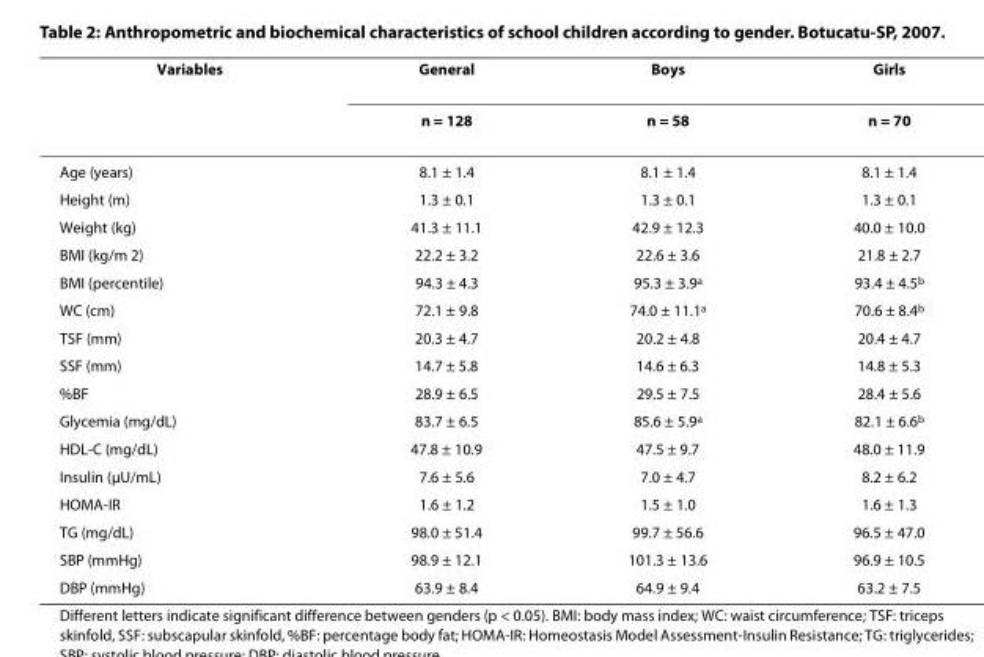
<table><thead><tr><td rowspan="2">Variables</td><td rowspan="2">General n = 128</td><td rowspan="2">Boys n = 58</td><td rowspan="2">Girls n = 70</td></tr><tr></tr></thead><tbody><tr><td>Age (years)</td><td>8.1 ± 1.4</td><td>8.1 ± 1.4</td><td>8.1 ± 1.4</td></tr><tr><td>Height (m)</td><td>1.3 ± 0.1</td><td>1.3 ± 0.1</td><td>1.3 ± 0.1</td></tr><tr><td>Weight (kg)</td><td>41.3 ± 11.1</td><td>42.9 ± 12.3</td><td>40.0 ± 10.0</td></tr><tr><td>BMI (kg/m 2)</td><td>22.2 ± 3.2</td><td>22.6 ± 3.6</td><td>21.8 ± 2.7</td></tr><tr><td>BMI (percentile)</td><td>94.3 ± 4.3</td><td>95.3 ± 3.9<sup>a</sup></td><td>93.4 ± 4.5<sup>b</sup></td></tr><tr><td>WC (cm)</td><td>72.1 ± 9.8</td><td>74.0 ± 11.1<sup>a</sup></td><td>70.6 ± 8.4<sup>b</sup></td></tr><tr><td>TSF (mm)</td><td>20.3 ± 4.7</td><td>20.2 ± 4.8</td><td>20.4 ± 4.7</td></tr><tr><td>SSF (mm)</td><td>14.7 ± 5.8</td><td>14.6 ± 6.3</td><td>14.8 ± 5.3</td></tr><tr><td>%BF</td><td>28.9 ± 6.5</td><td>29.5 ± 7.5</td><td>28.4 ± 5.6</td></tr><tr><td>Glycemia (mg/dL)</td><td>83.7 ± 6.5</td><td>85.6 ± 5.9<sup>a</sup></td><td>82.1 ± 6.6<sup>b</sup></td></tr><tr><td>HDL-C (mg/dL)</td><td>47.8 ± 10.9</td><td>47.5 ± 9.7</td><td>48.0 ± 11.9</td></tr><tr><td>Insulin (μU/mL)</td><td>7.6 ± 5.6</td><td>7.0 ± 4.7</td><td>8.2 ± 6.2</td></tr><tr><td>HOMA-IR</td><td>1.6 ± 1.2</td><td>1.5 ± 1.0</td><td>1.6 ± 1.3</td></tr><tr><td>TG (mg/dL)</td><td>98.0 ± 51.4</td><td>99.7 ± 56.6</td><td>96.5 ± 47.0</td></tr><tr><td>SBP (mmHg)</td><td>98.9 ± 12.1</td><td>101.3 ± 13.6</td><td>96.9 ± 10.5</td></tr><tr><td>DBP (mmHg)</td><td>63.9 ± 8.4</td><td>64.9 ± 9.4</td><td>63.2 ± 7.5</td></tr></tbody></table>